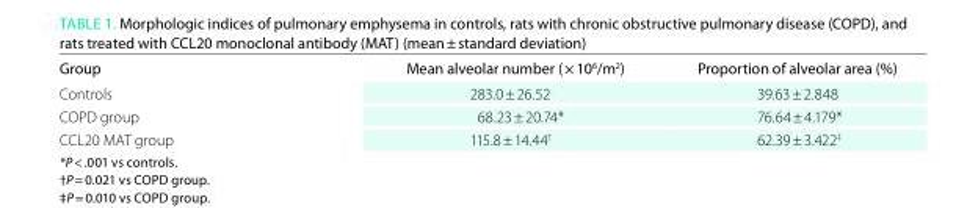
<table><thead><tr><td>Group</td><td>Mean alveolar number ( × 10<sup>6</sup>/m<sup>2</sup>)</td><td>Proportion of alveolar area (%)</td></tr></thead><tbody><tr><td>Controls</td><td>283.0 ± 26.52</td><td>39.63 ± 2.848</td></tr><tr><td>COPD group</td><td>68.23 ± 20.74*</td><td>76.64 ± 4.179*</td></tr><tr><td>CCL20 MAT group</td><td>115.8 ± 14.44<sup>†</sup></td><td>62.39 ± 3.422<sup>‡</sup></td></tr></tbody></table>